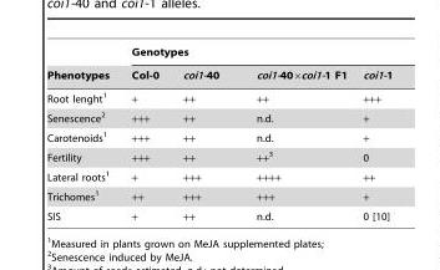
<table><thead><tr><td rowspan="2">Phenotypes</td><td colspan="4">Genotypes</td></tr><tr><td>Col-0</td><td>coi1-40</td><td>coi1-40×coi1-1 F1</td><td>coi1-1</td></tr></thead><tbody><tr><td>Root lenght<sup>1</sup></td><td>+</td><td>++</td><td>++</td><td>+++</td></tr><tr><td>Senescence<sup>2</sup></td><td>+++</td><td>++</td><td>n.d.</td><td>+</td></tr><tr><td>Carotenoids<sup>1</sup></td><td>+++</td><td>++</td><td>n.d.</td><td>+</td></tr><tr><td>Fertility</td><td>+++</td><td>++</td><td>++<sup>3</sup></td><td>0</td></tr><tr><td>Lateral roots<sup>1</sup></td><td>+</td><td>+++</td><td>++++</td><td>++</td></tr><tr><td>Trichomes<sup>1</sup></td><td>++</td><td>+++</td><td>+++</td><td>+</td></tr><tr><td>SIS</td><td>+</td><td>++</td><td>n.d.</td><td>0 [10]</td></tr></tbody></table>